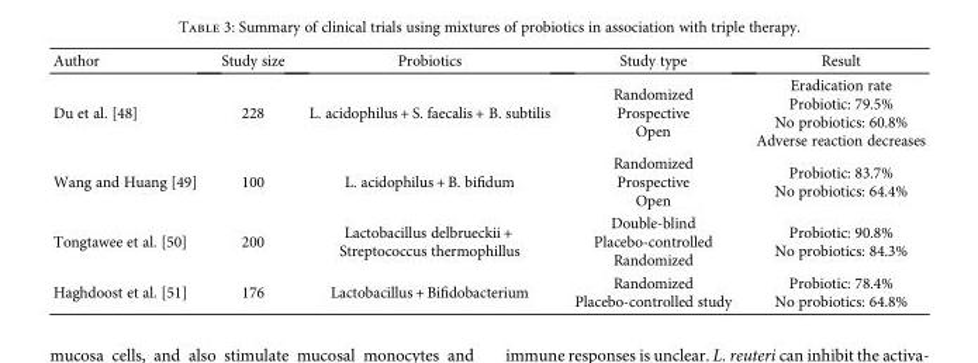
<table><thead><tr><td>Author</td><td>Study size</td><td>Probiotics</td><td>Study type</td><td>Result</td></tr></thead><tbody><tr><td>Du et al. [48]</td><td>228</td><td>L. acidophilus + S. faecalis + B. subtilis</td><td>Randomized Prospective Open</td><td>Eradication rate Probiotic: 79.5% No probiotics: 60.8% Adverse reaction decreases</td></tr><tr><td>Wang and Huang [49]</td><td>100</td><td>L. acidophilus + B. bifidum</td><td>Randomized Prospective Open</td><td>Probiotic: 83.7% No probiotics: 64.4%</td></tr><tr><td>Tongtawee et al. [50]</td><td>200</td><td>Lactobacillus delbrueckii + Streptococcus thermophillus</td><td>Double-blind Placebo-controlled Randomized</td><td>Probiotic: 90.8% No probiotics: 84.3%</td></tr><tr><td>Haghdoost et al. [51]</td><td>176</td><td>Lactobacillus + Bifidobacterium</td><td>Randomized Placebo-controlled study</td><td>Probiotic: 78.4% No probiotics: 64.8%</td></tr></tbody></table>